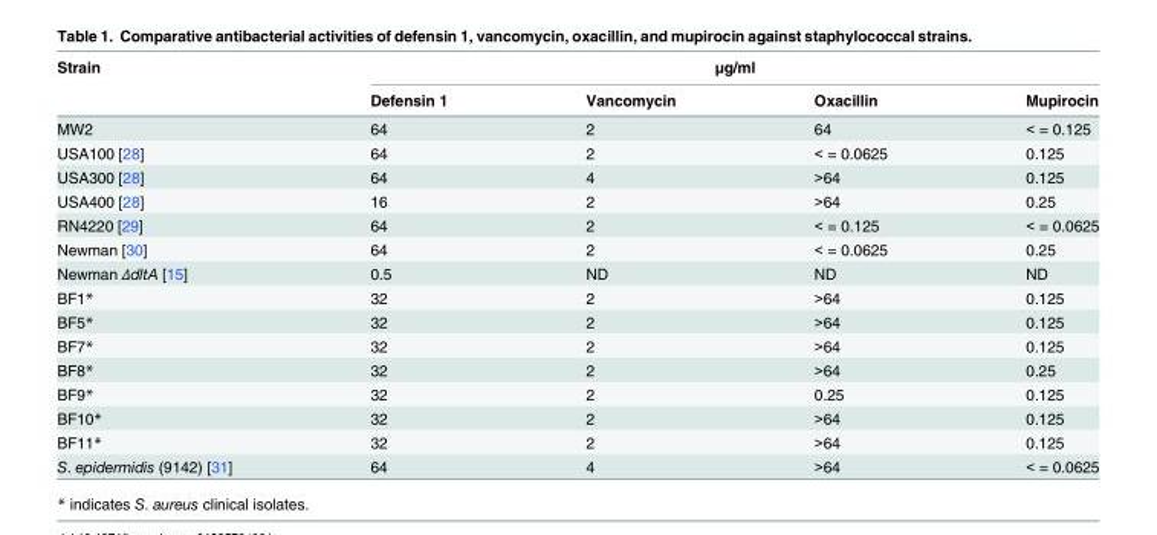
<table><thead><tr><td rowspan="2">Strain</td><td colspan="4">μg/ml</td></tr><tr><td>Defensin 1</td><td>Vancomycin</td><td>Oxacillin</td><td>Mupirocin</td></tr></thead><tbody><tr><td>MW2</td><td>64</td><td>2</td><td>64</td><td>&lt; = 0.125</td></tr><tr><td>USA100 [28]</td><td>64</td><td>2</td><td>&lt; = 0.0625</td><td>0.125</td></tr><tr><td>USA300 [28]</td><td>64</td><td>4</td><td>&gt;64</td><td>0.125</td></tr><tr><td>USA400 [28]</td><td>16</td><td>2</td><td>&gt;64</td><td>0.25</td></tr><tr><td>RN4220 [29]</td><td>64</td><td>2</td><td>&lt; = 0.125</td><td>&lt; = 0.0625</td></tr><tr><td>Newman [30]</td><td>64</td><td>2</td><td>&lt; = 0.0625</td><td>0.25</td></tr><tr><td>Newman ΔdltA [15]</td><td>0.5</td><td>ND</td><td>ND</td><td>ND</td></tr><tr><td>BF1*</td><td>32</td><td>2</td><td>&gt;64</td><td>0.125</td></tr><tr><td>BF5*</td><td>32</td><td>2</td><td>&gt;64</td><td>0.125</td></tr><tr><td>BF7*</td><td>32</td><td>2</td><td>&gt;64</td><td>0.125</td></tr><tr><td>BF8*</td><td>32</td><td>2</td><td>&gt;64</td><td>0.25</td></tr><tr><td>BF9*</td><td>32</td><td>2</td><td>0.25</td><td>0.125</td></tr><tr><td>BF10*</td><td>32</td><td>2</td><td>&gt;64</td><td>0.125</td></tr><tr><td>BF11*</td><td>32</td><td>2</td><td>&gt;64</td><td>0.125</td></tr><tr><td>S. epidermidis (9142) [31]</td><td>64</td><td>4</td><td>&gt;64</td><td>&lt; = 0.0625</td></tr></tbody></table>